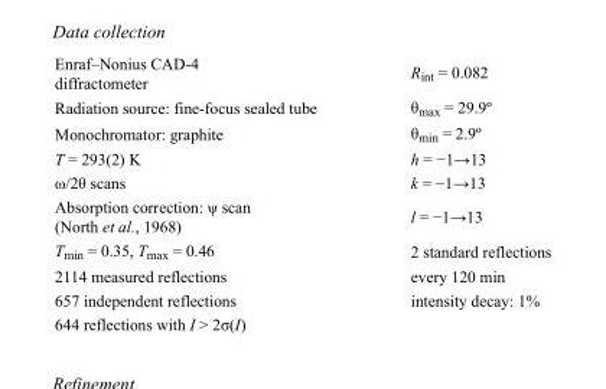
<table><tbody><tr><td>Enraf–Nonius CAD-4 diffractometer</td><td>R<sub>int</sub> = 0.082</td></tr><tr><td>Radiation source: fine-focus sealed tube</td><td>θ<sub>max</sub> = 29.9º</td></tr><tr><td>Monochromator: graphite</td><td>θ<sub>min</sub> = 2.9º</td></tr><tr><td>T = 293(2) K</td><td>h = −1→13</td></tr><tr><td>ω/2θ scans</td><td>k = −1→13</td></tr><tr><td>Absorption correction: ψ scan (North et al., 1968)</td><td>l = −1→13</td></tr><tr><td>T<sub>min</sub> = 0.35, T<sub>max</sub> = 0.46</td><td>2 standard reflections</td></tr><tr><td>2114 measured reflections</td><td>every 120 min</td></tr><tr><td>657 independent reflections</td><td>intensity decay: 1%</td></tr><tr><td>644 reflections with I &gt; 2σ(I)</td><td></td></tr></tbody></table>